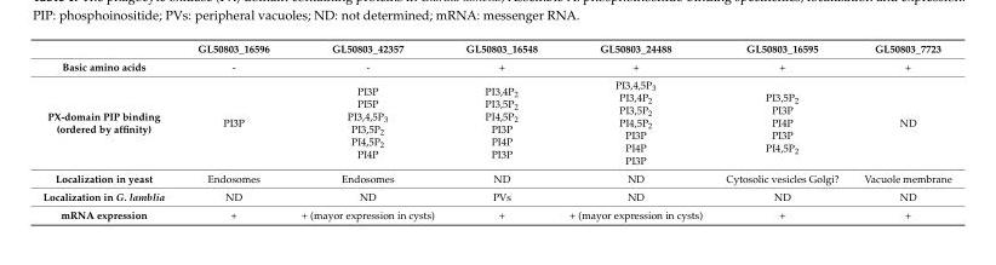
<table><thead><tr><td></td><td>GL50803_16596</td><td>GL50803_42357</td><td>GL50803_16548</td><td>GL50803_24488</td><td>GL50803_16595</td><td>GL50803_7723</td></tr></thead><tbody><tr><td>Basic amino acids</td><td>-</td><td>-</td><td>+</td><td>+</td><td>+</td><td>+</td></tr><tr><td>PX-domain PIP binding (ordered by affinity)</td><td>PI3P</td><td>PI3P PI5P PI3,4,5P<sub>3</sub> PI3,5P<sub>2</sub> PI4,5P<sub>2</sub> PI4P</td><td>PI3,4P<sub>2</sub> PI3,5P<sub>2</sub> PI4,5P<sub>2</sub> PI3P PI4P PI3P</td><td>PI3,4,5P<sub>3</sub> PI3,4P<sub>2</sub> PI3,5P<sub>2</sub> PI4,5P<sub>2</sub> PI3P PI4P PI3P</td><td>PI3,5P<sub>2</sub> PI3P PI4P PI3P PI4,5P<sub>2</sub></td><td>ND</td></tr><tr><td>Localization in yeast</td><td>Endosomes</td><td>Endosomes</td><td>ND</td><td>ND</td><td>Cytosolic vesicles Golgi?</td><td>Vacuole membrane</td></tr><tr><td>Localization in G. lamblia</td><td>ND</td><td>ND</td><td>PVs</td><td>ND</td><td>ND</td><td>ND</td></tr><tr><td>mRNA expression</td><td>+</td><td>+ (mayor expression in cysts)</td><td>+</td><td>+ (mayor expression in cysts)</td><td>+</td><td>+</td></tr></tbody></table>